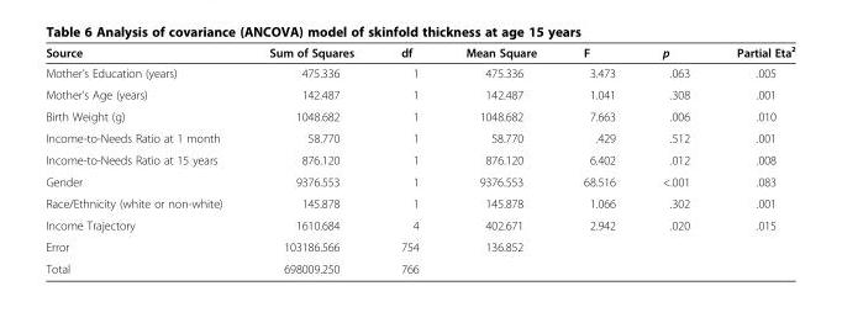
<table><thead><tr><td>Source</td><td>Sum of Squares</td><td>df</td><td>Mean Square</td><td>F</td><td>p</td><td>Partial Eta²</td></tr></thead><tbody><tr><td>Mother’s Education (years)</td><td>475.336</td><td>1</td><td>475.336</td><td>3.473</td><td>.063</td><td>.005</td></tr><tr><td>Mother’s Age (years)</td><td>142.487</td><td>1</td><td>142.487</td><td>1.041</td><td>.308</td><td>.001</td></tr><tr><td>Birth Weight (g)</td><td>1048.682</td><td>1</td><td>1048.682</td><td>7.663</td><td>.006</td><td>.010</td></tr><tr><td>Income-to-Needs Ratio at 1 month</td><td>58.770</td><td>1</td><td>58.770</td><td>.429</td><td>.512</td><td>.001</td></tr><tr><td>Income-to-Needs Ratio at 15 years</td><td>876.120</td><td>1</td><td>876.120</td><td>6.402</td><td>.012</td><td>.008</td></tr><tr><td>Gender</td><td>9376.553</td><td>1</td><td>9376.553</td><td>68.516</td><td>&lt;.001</td><td>.083</td></tr><tr><td>Race/Ethnicity (white or non-white)</td><td>145.878</td><td>1</td><td>145.878</td><td>1.066</td><td>.302</td><td>.001</td></tr><tr><td>Income Trajectory</td><td>1610.684</td><td>4</td><td>402.671</td><td>2.942</td><td>.020</td><td>.015</td></tr><tr><td>Error</td><td>103186.566</td><td>754</td><td>136.852</td><td></td><td></td><td></td></tr><tr><td>Total</td><td>698009.250</td><td>766</td><td></td><td></td><td></td><td></td></tr></tbody></table>